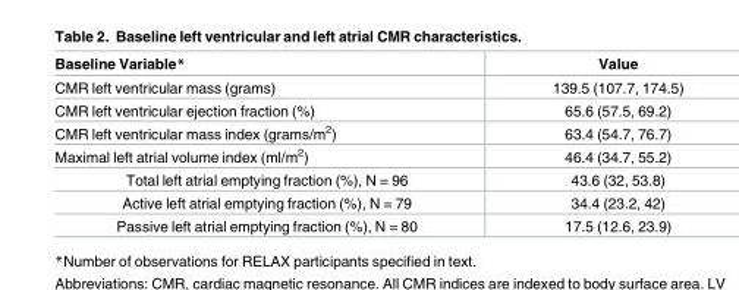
<table><thead><tr><td>Baseline Variable*</td><td>Value</td></tr></thead><tbody><tr><td>CMR left ventricular mass (grams)</td><td>139.5 (107.7, 174.5)</td></tr><tr><td>CMR left ventricular ejection fraction (%)</td><td>65.6 (57.5, 69.2)</td></tr><tr><td>CMR left ventricular mass index (grams/m<sup>2</sup>)</td><td>63.4 (54.7, 76.7)</td></tr><tr><td>Maximal left atrial volume index (ml/m<sup>2</sup>)</td><td>46.4 (34.7, 55.2)</td></tr><tr><td>Total left atrial emptying fraction (%), N = 96</td><td>43.6 (32, 53.8)</td></tr><tr><td>Active left atrial emptying fraction (%), N = 79</td><td>34.4 (23.2, 42)</td></tr><tr><td>Passive left atrial emptying fraction (%), N = 80</td><td>17.5 (12.6, 23.9)</td></tr></tbody></table>